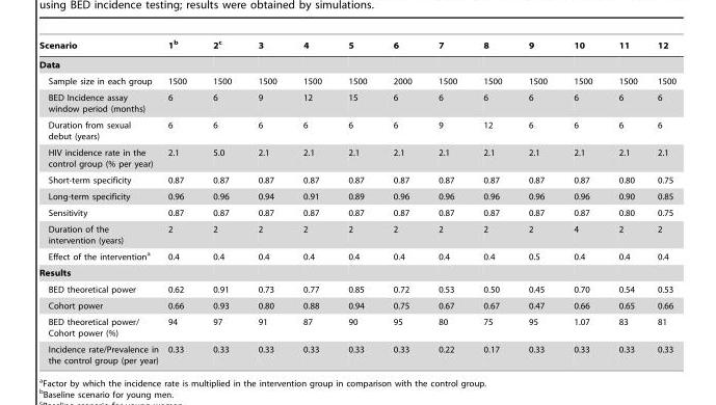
<table><thead><tr><td>Scenario</td><td>1<sup>b</sup></td><td>2<sup>c</sup></td><td>3</td><td>4</td><td>5</td><td>6</td><td>7</td><td>8</td><td>9</td><td>10</td><td>11</td><td>12</td></tr></thead><tbody><tr><td colspan="13">Data</td></tr><tr><td>Sample size in each group</td><td>1500</td><td>1500</td><td>1500</td><td>1500</td><td>1500</td><td>2000</td><td>1500</td><td>1500</td><td>1500</td><td>1500</td><td>1500</td><td>1500</td></tr><tr><td>BED Incidence assay window period (months)</td><td>6</td><td>6</td><td>9</td><td>12</td><td>15</td><td>6</td><td>6</td><td>6</td><td>6</td><td>6</td><td>6</td><td>6</td></tr><tr><td>Duration from sexual debut (years)</td><td>6</td><td>6</td><td>6</td><td>6</td><td>6</td><td>6</td><td>9</td><td>12</td><td>6</td><td>6</td><td>6</td><td>6</td></tr><tr><td>HIV incidence rate in the control group (% per year)</td><td>2.1</td><td>5.0</td><td>2.1</td><td>2.1</td><td>2.1</td><td>2.1</td><td>2.1</td><td>2.1</td><td>2.1</td><td>2.1</td><td>2.1</td><td>2.1</td></tr><tr><td>Short-term specificity</td><td>0.87</td><td>0.87</td><td>0.87</td><td>0.87</td><td>0.87</td><td>0.87</td><td>0.87</td><td>0.87</td><td>0.87</td><td>0.87</td><td>0.80</td><td>0.75</td></tr><tr><td>Long-term specificity</td><td>0.96</td><td>0.96</td><td>0.94</td><td>0.91</td><td>0.89</td><td>0.96</td><td>0.96</td><td>0.96</td><td>0.96</td><td>0.96</td><td>0.90</td><td>0.85</td></tr><tr><td>Sensitivity</td><td>0.87</td><td>0.87</td><td>0.87</td><td>0.87</td><td>0.87</td><td>0.87</td><td>0.87</td><td>0.87</td><td>0.87</td><td>0.87</td><td>0.80</td><td>0.75</td></tr><tr><td>Duration of the intervention (years)</td><td>2</td><td>2</td><td>2</td><td>2</td><td>2</td><td>2</td><td>2</td><td>2</td><td>2</td><td>4</td><td>2</td><td>2</td></tr><tr><td>Effect of the intervention<sup>a</sup></td><td>0.4</td><td>0.4</td><td>0.4</td><td>0.4</td><td>0.4</td><td>0.4</td><td>0.4</td><td>0.4</td><td>0.5</td><td>0.4</td><td>0.4</td><td>0.4</td></tr><tr><td colspan="13">Results</td></tr><tr><td>BED theoretical power</td><td>0.62</td><td>0.91</td><td>0.73</td><td>0.77</td><td>0.85</td><td>0.72</td><td>0.53</td><td>0.50</td><td>0.45</td><td>0.70</td><td>0.54</td><td>0.53</td></tr><tr><td>Cohort power</td><td>0.66</td><td>0.93</td><td>0.80</td><td>0.88</td><td>0.94</td><td>0.75</td><td>0.67</td><td>0.67</td><td>0.47</td><td>0.66</td><td>0.65</td><td>0.66</td></tr><tr><td>BED theoretical power/ Cohort power (%)</td><td>94</td><td>97</td><td>91</td><td>87</td><td>90</td><td>95</td><td>80</td><td>75</td><td>95</td><td>1.07</td><td>83</td><td>81</td></tr><tr><td>Incidence rate/Prevalence in the control group (per year)</td><td>0.33</td><td>0.33</td><td>0.33</td><td>0.33</td><td>0.33</td><td>0.33</td><td>0.22</td><td>0.17</td><td>0.33</td><td>0.33</td><td>0.33</td><td>0.33</td></tr></tbody></table>